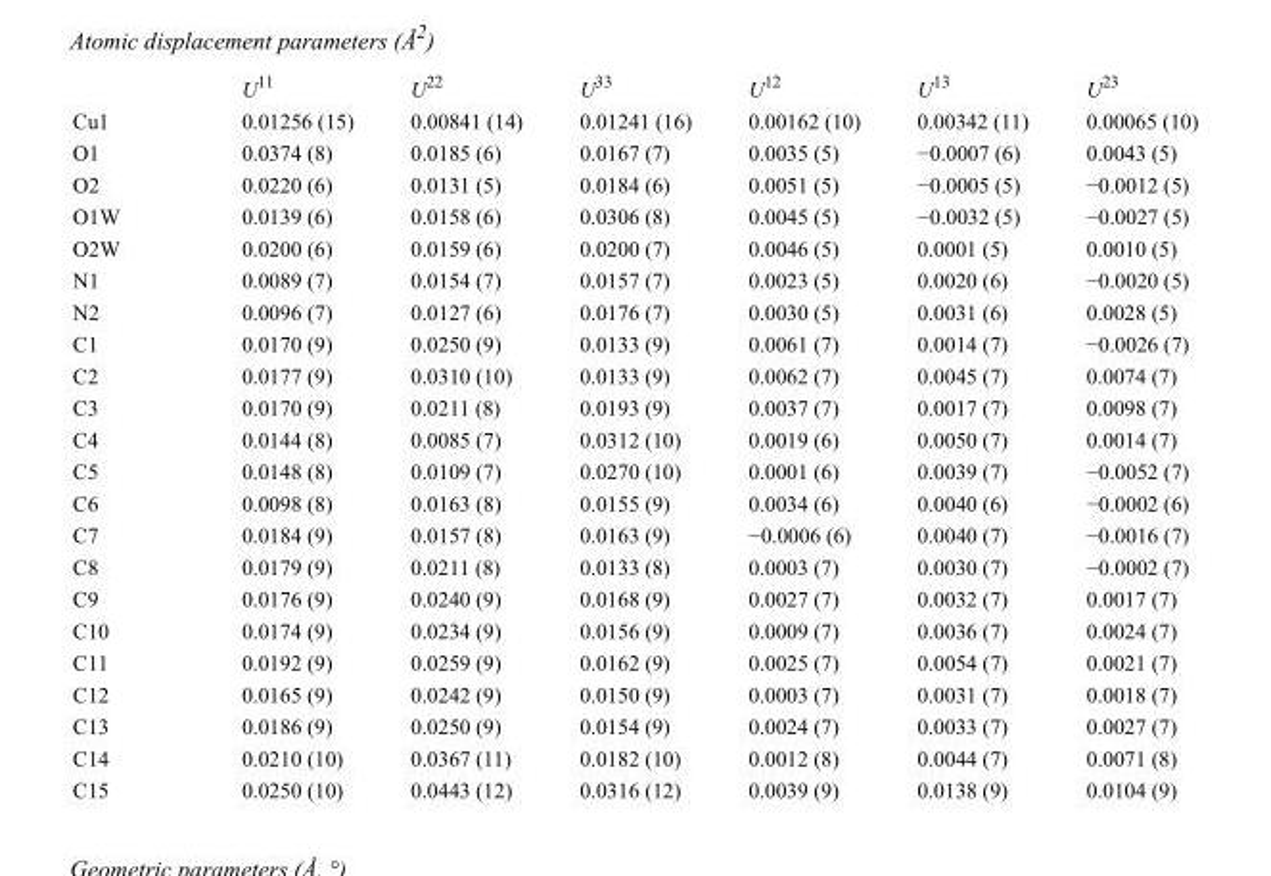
<table><thead><tr><td></td><td>U<sup>11</sup></td><td>U<sup>22</sup></td><td>U<sup>33</sup></td><td>U<sup>12</sup></td><td>U<sup>13</sup></td><td>U<sup>23</sup></td></tr></thead><tbody><tr><td>Cu1</td><td>0.01256 (15)</td><td>0.00841 (14)</td><td>0.01241 (16)</td><td>0.00162 (10)</td><td>0.00342 (11)</td><td>0.00065 (10)</td></tr><tr><td>O1</td><td>0.0374 (8)</td><td>0.0185 (6)</td><td>0.0167 (7)</td><td>0.0035 (5)</td><td>−0.0007 (6)</td><td>0.0043 (5)</td></tr><tr><td>O2</td><td>0.0220 (6)</td><td>0.0131 (5)</td><td>0.0184 (6)</td><td>0.0051 (5)</td><td>−0.0005 (5)</td><td>−0.0012 (5)</td></tr><tr><td>O1W</td><td>0.0139 (6)</td><td>0.0158 (6)</td><td>0.0306 (8)</td><td>0.0045 (5)</td><td>−0.0032 (5)</td><td>−0.0027 (5)</td></tr><tr><td>O2W</td><td>0.0200 (6)</td><td>0.0159 (6)</td><td>0.0200 (7)</td><td>0.0046 (5)</td><td>0.0001 (5)</td><td>0.0010 (5)</td></tr><tr><td>N1</td><td>0.0089 (7)</td><td>0.0154 (7)</td><td>0.0157 (7)</td><td>0.0023 (5)</td><td>0.0020 (6)</td><td>−0.0020 (5)</td></tr><tr><td>N2</td><td>0.0096 (7)</td><td>0.0127 (6)</td><td>0.0176 (7)</td><td>0.0030 (5)</td><td>0.0031 (6)</td><td>0.0028 (5)</td></tr><tr><td>C1</td><td>0.0170 (9)</td><td>0.0250 (9)</td><td>0.0133 (9)</td><td>0.0061 (7)</td><td>0.0014 (7)</td><td>−0.0026 (7)</td></tr><tr><td>C2</td><td>0.0177 (9)</td><td>0.0310 (10)</td><td>0.0133 (9)</td><td>0.0062 (7)</td><td>0.0045 (7)</td><td>0.0074 (7)</td></tr><tr><td>C3</td><td>0.0170 (9)</td><td>0.0211 (8)</td><td>0.0193 (9)</td><td>0.0037 (7)</td><td>0.0017 (7)</td><td>0.0098 (7)</td></tr><tr><td>C4</td><td>0.0144 (8)</td><td>0.0085 (7)</td><td>0.0312 (10)</td><td>0.0019 (6)</td><td>0.0050 (7)</td><td>0.0014 (7)</td></tr><tr><td>C5</td><td>0.0148 (8)</td><td>0.0109 (7)</td><td>0.0270 (10)</td><td>0.0001 (6)</td><td>0.0039 (7)</td><td>−0.0052 (7)</td></tr><tr><td>C6</td><td>0.0098 (8)</td><td>0.0163 (8)</td><td>0.0155 (9)</td><td>0.0034 (6)</td><td>0.0040 (6)</td><td>−0.0002 (6)</td></tr><tr><td>C7</td><td>0.0184 (9)</td><td>0.0157 (8)</td><td>0.0163 (9)</td><td>−0.0006 (6)</td><td>0.0040 (7)</td><td>−0.0016 (7)</td></tr><tr><td>C8</td><td>0.0179 (9)</td><td>0.0211 (8)</td><td>0.0133 (8)</td><td>0.0003 (7)</td><td>0.0030 (7)</td><td>−0.0002 (7)</td></tr><tr><td>C9</td><td>0.0176 (9)</td><td>0.0240 (9)</td><td>0.0168 (9)</td><td>0.0027 (7)</td><td>0.0032 (7)</td><td>0.0017 (7)</td></tr><tr><td>C10</td><td>0.0174 (9)</td><td>0.0234 (9)</td><td>0.0156 (9)</td><td>0.0009 (7)</td><td>0.0036 (7)</td><td>0.0024 (7)</td></tr><tr><td>C11</td><td>0.0192 (9)</td><td>0.0259 (9)</td><td>0.0162 (9)</td><td>0.0025 (7)</td><td>0.0054 (7)</td><td>0.0021 (7)</td></tr><tr><td>C12</td><td>0.0165 (9)</td><td>0.0242 (9)</td><td>0.0150 (9)</td><td>0.0003 (7)</td><td>0.0031 (7)</td><td>0.0018 (7)</td></tr><tr><td>C13</td><td>0.0186 (9)</td><td>0.0250 (9)</td><td>0.0154 (9)</td><td>0.0024 (7)</td><td>0.0033 (7)</td><td>0.0027 (7)</td></tr><tr><td>C14</td><td>0.0210 (10)</td><td>0.0367 (11)</td><td>0.0182 (10)</td><td>0.0012 (8)</td><td>0.0044 (7)</td><td>0.0071 (8)</td></tr><tr><td>C15</td><td>0.0250 (10)</td><td>0.0443 (12)</td><td>0.0316 (12)</td><td>0.0039 (9)</td><td>0.0138 (9)</td><td>0.0104 (9)</td></tr></tbody></table>